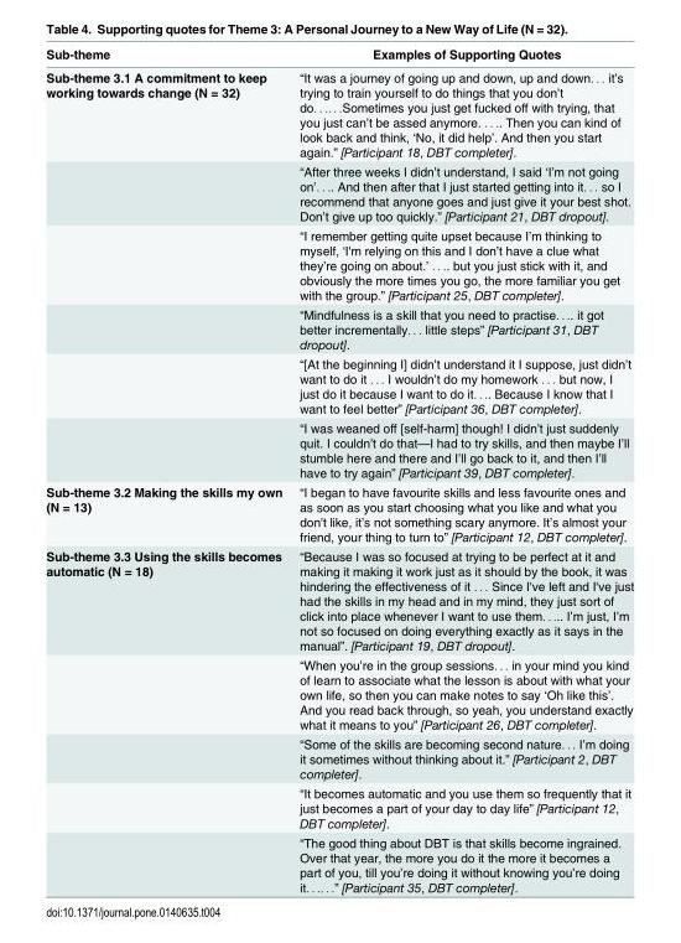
<table><thead><tr><td>Sub-theme</td><td>Examples of Supporting Quotes</td></tr></thead><tbody><tr><td rowspan="6">Sub-theme 3.1 A commitment to keep working towards change (N = 32)</td><td>“It was a journey of going up and down, up and down. . . it’s trying to train yourself to do things that you don’t do. . .. . .Sometimes you just get fucked off with trying, that you just can’t be assed anymore. . . .. Then you can kind of look back and think, ‘No, it did help’. And then you start again.” [Participant 18, DBT completer].</td></tr><tr><td>“After three weeks I didn’t understand, I said ‘I’m not going on’. . .. And then after that I just started getting into it. . . so I recommend that anyone goes and just give it your best shot. Don’t give up too quickly.” [Participant 21, DBT dropout].</td></tr><tr><td>“I remember getting quite upset because I’m thinking to myself, ‘I&#x27;m relying on this and I don’t have a clue what they’re going on about.’ . . .. but you just stick with it, and obviously the more times you go, the more familiar you get with the group.” [Participant 25, DBT completer].</td></tr><tr><td>“Mindfulness is a skill that you need to practise. . .. it got better incrementally. . . little steps” [Participant 31, DBT dropout].</td></tr><tr><td>“[At the beginning I] didn’t understand it I suppose, just didn’t want to do it . . . I wouldn’t do my homework . . . but now, I just do it because I want to do it. . .. Because I know that I want to feel better” [Participant 36, DBT completer].</td></tr><tr><td>“I was weaned off [self-harm] though! I didn’t just suddenly quit. I couldn’t do that—I had to try skills, and then maybe I’ll stumble here and there and I’ll go back to it, and then I’ll have to try again” [Participant 39, DBT completer].</td></tr><tr><td>Sub-theme 3.2 Making the skills my own (N = 13)</td><td>“I began to have favourite skills and less favourite ones and as soon as you start choosing what you like and what you don&#x27;t like, it’s not something scary anymore. It’s almost your friend, your thing to turn to” [Participant 12, DBT completer].</td></tr><tr><td rowspan="5">Sub-theme 3.3 Using the skills becomes automatic (N = 18)</td><td>“Because I was so focused at trying to be perfect at it and making it making it work just as it should by the book, it was hindering the effectiveness of it . . . Since I&#x27;ve left and I&#x27;ve just had the skills in my head and in my mind, they just sort of click into place whenever I want to use them. . ... I’m just, I’m not so focused on doing everything exactly as it says in the manual”. [Participant 19, DBT dropout].</td></tr><tr><td>“When you’re in the group sessions. . . in your mind you kind of learn to associate what the lesson is about with what your own life, so then you can make notes to say ‘Oh like this’. And you read back through, so yeah, you understand exactly what it means to you” [Participant 26, DBT completer].</td></tr><tr><td>“Some of the skills are becoming second nature. . . I’m doing it sometimes without thinking about it.” [Participant 2, DBT completer].</td></tr><tr><td>“It becomes automatic and you use them so frequently that it just becomes a part of your day to day life” [Participant 12, DBT completer].</td></tr><tr><td>“The good thing about DBT is that skills become ingrained. Over that year, the more you do it the more it becomes a part of you, till you’re doing it without knowing you’re doing it. . .. . .” [Participant 35, DBT completer].</td></tr></tbody></table>